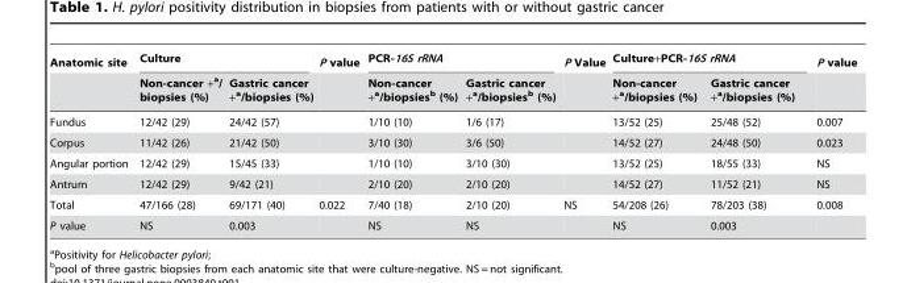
<table><thead><tr><td rowspan="2">Anatomic site</td><td colspan="2">Culture</td><td rowspan="2">P value</td><td colspan="2">PCR-16S rRNA</td><td rowspan="2">P Value</td><td colspan="2">Culture+PCR-16S rRNA</td><td rowspan="2">P value</td></tr><tr><td>Non-cancer +<sup>a</sup>/ biopsies (%)</td><td>Gastric cancer +<sup>a</sup>/biopsies (%)</td><td>Non-cancer +<sup>a</sup>/biopsies<sup>b</sup> (%)</td><td>Gastric cancer +<sup>a</sup>/biopsies<sup>b</sup> (%)</td><td>Non-cancer +<sup>a</sup>/biopsies (%)</td><td>Gastric cancer +<sup>a</sup>/biopsies (%)</td></tr></thead><tbody><tr><td>Fundus</td><td>12/42 (29)</td><td>24/42 (57)</td><td></td><td>1/10 (10)</td><td>1/6 (17)</td><td></td><td>13/52 (25)</td><td>25/48 (52)</td><td>0.007</td></tr><tr><td>Corpus</td><td>11/42 (26)</td><td>21/42 (50)</td><td></td><td>3/10 (30)</td><td>3/6 (50)</td><td></td><td>14/52 (27)</td><td>24/48 (50)</td><td>0.023</td></tr><tr><td>Angular portion</td><td>12/42 (29)</td><td>15/45 (33)</td><td></td><td>1/10 (10)</td><td>3/10 (30)</td><td></td><td>13/52 (25)</td><td>18/55 (33)</td><td>NS</td></tr><tr><td>Antrum</td><td>12/42 (29)</td><td>9/42 (21)</td><td></td><td>2/10 (20)</td><td>2/10 (20)</td><td></td><td>14/52 (27)</td><td>11/52 (21)</td><td>NS</td></tr><tr><td>Total</td><td>47/166 (28)</td><td>69/171 (40)</td><td>0.022</td><td>7/40 (18)</td><td>2/10 (20)</td><td>NS</td><td>54/208 (26)</td><td>78/203 (38)</td><td>0.008</td></tr><tr><td>P value</td><td>NS</td><td>0.003</td><td></td><td>NS</td><td>NS</td><td></td><td>NS</td><td>0.003</td><td></td></tr></tbody></table>